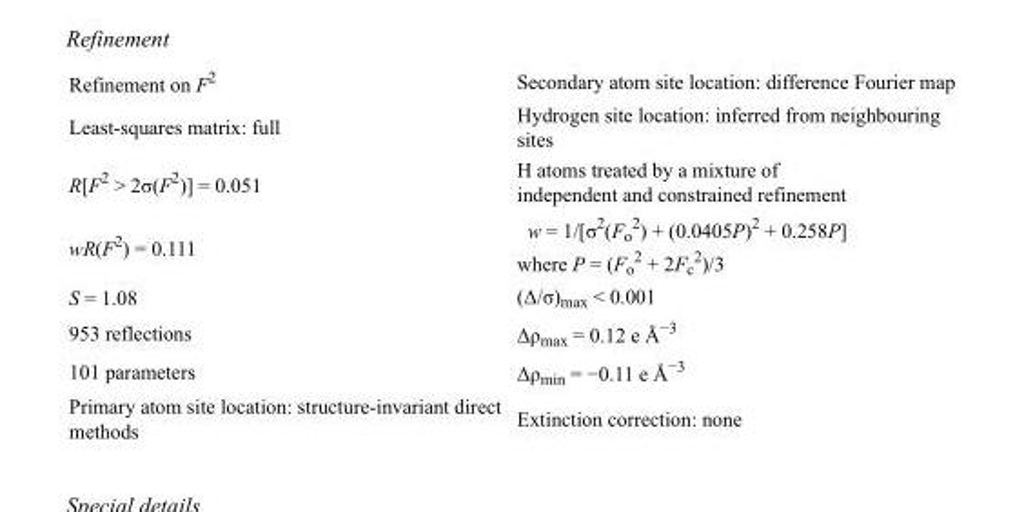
<table><tbody><tr><td>Refinement on F<sup>2</sup></td><td>Secondary atom site location: difference Fourier map</td></tr><tr><td>Least-squares matrix: full</td><td>Hydrogen site location: inferred from neighbouring sites</td></tr><tr><td>R[F<sup>2</sup> &gt; 2σ(F<sup>2</sup>)] = 0.051</td><td>H atoms treated by a mixture of independent and constrained refinement</td></tr><tr><td>wR(F<sup>2</sup>) = 0.111</td><td>w = 1/[σ<sup>2</sup>(F<sub>o</sub> <sup>2</sup>) + (0.0405P)<sup>2</sup> + 0.258P] where P = (F<sub>o</sub> <sup>2</sup> + 2F<sub>c</sub> <sup>2</sup>)/3</td></tr><tr><td>S = 1.08</td><td>(Δ/σ)<sub>max</sub> &lt; 0.001</td></tr><tr><td>953 reflections</td><td>Δρ<sub>max</sub> = 0.12 e Å<sup>−3</sup></td></tr><tr><td>101 parameters</td><td>Δρ<sub>min</sub> = −0.11 e Å<sup>−3</sup></td></tr><tr><td>Primary atom site location: structure-invariant direct methods</td><td>Extinction correction: none</td></tr></tbody></table>